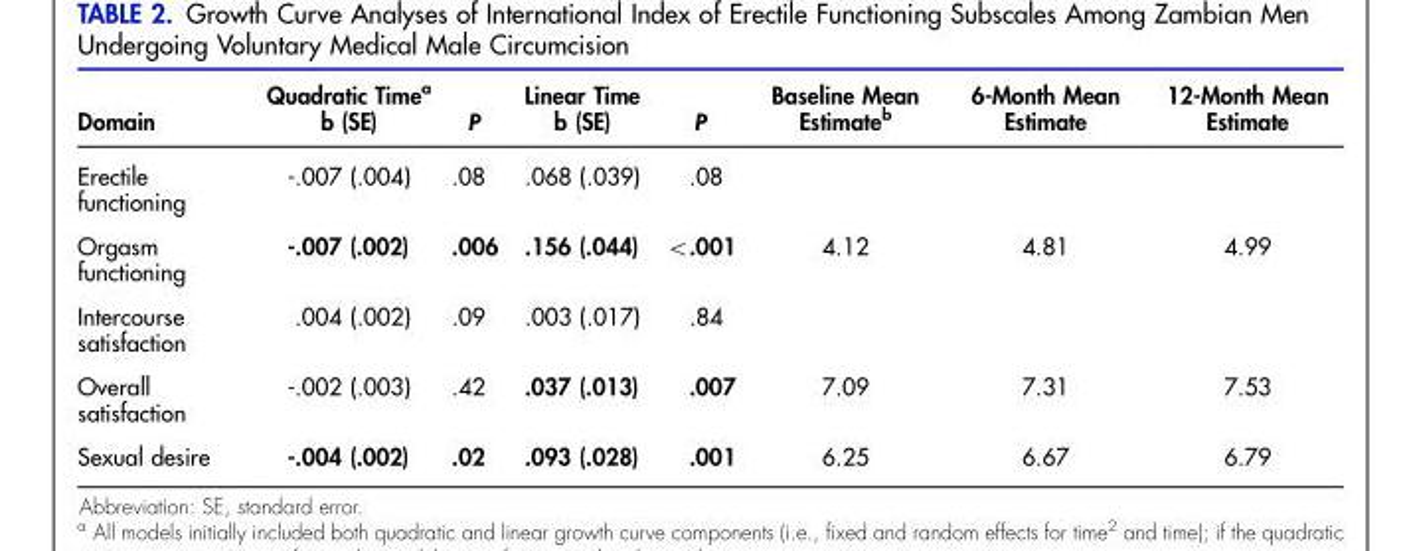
<table><thead><tr><td>Domain</td><td>Quadratic Time<sup>a</sup> b (SE)</td><td>P</td><td>Linear Time b (SE)</td><td>P</td><td>Baseline Mean Estimate<sup>b</sup></td><td>6-Month Mean Estimate</td><td>12-Month Mean Estimate</td></tr></thead><tbody><tr><td>Erectile functioning</td><td>-.007 (.004)</td><td>.08</td><td>.068 (.039)</td><td>.08</td><td></td><td></td><td></td></tr><tr><td>Orgasm functioning</td><td>-.007 (.002)</td><td>.006</td><td>.156 (.044)</td><td>&lt;.001</td><td>4.12</td><td>4.81</td><td>4.99</td></tr><tr><td>Intercourse satisfaction</td><td>.004 (.002)</td><td>.09</td><td>.003 (.017)</td><td>.84</td><td></td><td></td><td></td></tr><tr><td>Overall satisfaction</td><td>-.002 (.003)</td><td>.42</td><td>.037 (.013)</td><td>.007</td><td>7.09</td><td>7.31</td><td>7.53</td></tr><tr><td>Sexual desire</td><td>-.004 (.002)</td><td>.02</td><td>.093 (.028)</td><td>.001</td><td>6.25</td><td>6.67</td><td>6.79</td></tr></tbody></table>